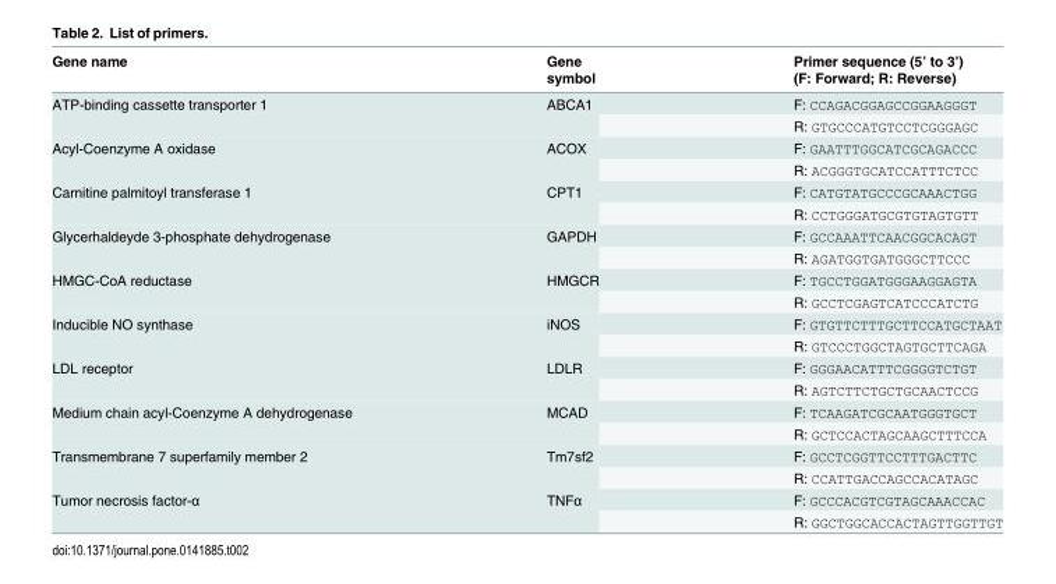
<table><thead><tr><td rowspan="2">Gene name</td><td rowspan="2">Gene symbol</td><td rowspan="2">Primer sequence (5’ to 3’) (F: Forward; R: Reverse)</td></tr><tr></tr></thead><tbody><tr><td rowspan="2">ATP-binding cassette transporter 1</td><td rowspan="2">ABCA1</td><td>F: CCAGACGGAGCCGGAAGGGT</td></tr><tr><td>R: GTGCCCATGTCCTCGGGAGC</td></tr><tr><td rowspan="2">Acyl-Coenzyme A oxidase</td><td rowspan="2">ACOX</td><td>F: GAATTTGGCATCGCAGACCC</td></tr><tr><td>R: ACGGGTGCATCCATTTCTCC</td></tr><tr><td rowspan="2">Carnitine palmitoyl transferase 1</td><td rowspan="2">CPT1</td><td>F: CATGTATGCCCGCAAACTGG</td></tr><tr><td>R: CCTGGGATGCGTGTAGTGTT</td></tr><tr><td rowspan="2">Glycerhaldeyde 3-phosphate dehydrogenase</td><td rowspan="2">GAPDH</td><td>F: GCCAAATTCAACGGCACAGT</td></tr><tr><td>R: AGATGGTGATGGGCTTCCC</td></tr><tr><td rowspan="2">HMGC-CoA reductase</td><td rowspan="2">HMGCR</td><td>F: TGCCTGGATGGGAAGGAGTA</td></tr><tr><td>R: GCCTCGAGTCATCCCATCTG</td></tr><tr><td rowspan="2">Inducible NO synthase</td><td rowspan="2">iNOS</td><td>F: GTGTTCTTTGCTTCCATGCTAAT</td></tr><tr><td>R: GTCCCTGGCTAGTGCTTCAGA</td></tr><tr><td rowspan="2">LDL receptor</td><td rowspan="2">LDLR</td><td>F: GGGAACATTTCGGGGTCTGT</td></tr><tr><td>R: AGTCTTCTGCTGCAACTCCG</td></tr><tr><td rowspan="2">Medium chain acyl-Coenzyme A dehydrogenase</td><td rowspan="2">MCAD</td><td>F: TCAAGATCGCAATGGGTGCT</td></tr><tr><td>R: GCTCCACTAGCAAGCTTTCCA</td></tr><tr><td rowspan="2">Transmembrane 7 superfamily member 2</td><td rowspan="2">Tm7sf2</td><td>F: GCCTCGGTTCCTTTGACTTC</td></tr><tr><td>R: CCATTGACCAGCCACATAGC</td></tr><tr><td rowspan="2">Tumor necrosis factor-α</td><td rowspan="2">TNFα</td><td>F: GCCCACGTCGTAGCAAACCAC</td></tr><tr><td>R: GGCTGGCACCACTAGTTGGTTGT</td></tr></tbody></table>